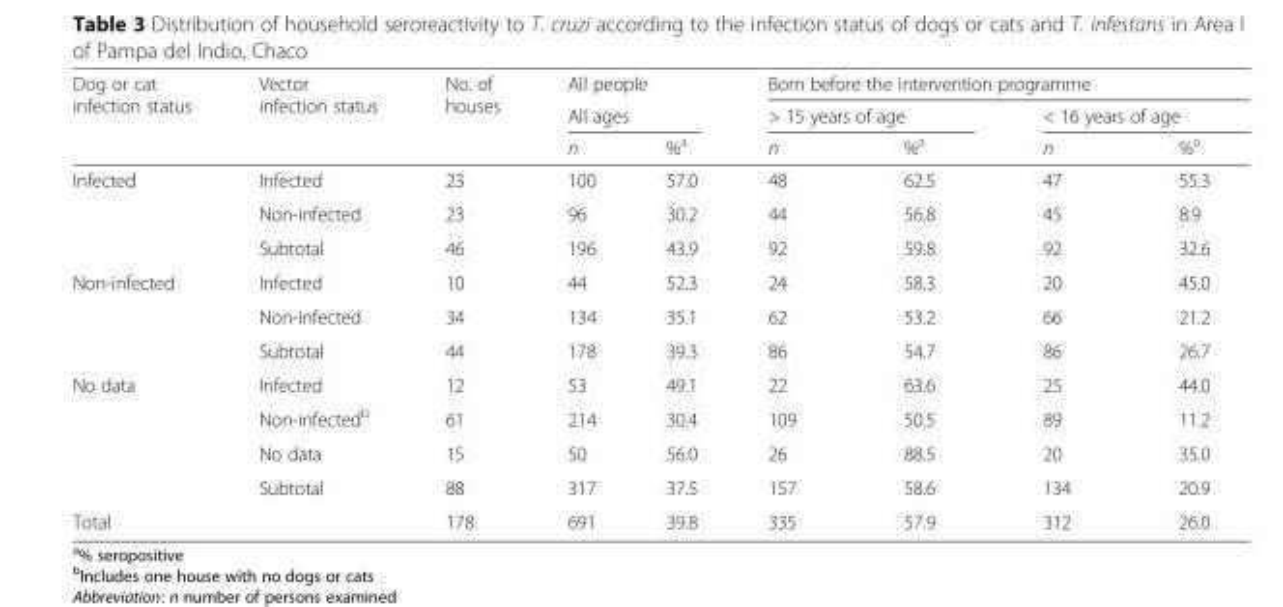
<table><thead><tr><td rowspan="3">Dog or cat infection status</td><td rowspan="3">Vector infection status</td><td rowspan="3">No. of houses</td><td rowspan="2" colspan="2">All people All ages</td><td colspan="4">Born before the intervention programme</td></tr><tr><td colspan="2">&gt; 15 years of age</td><td colspan="2">&lt; 16 years of age</td></tr><tr><td>n</td><td>%<sup>a</sup></td><td>n</td><td>%<sup>a</sup></td><td>n</td><td>%<sup>a</sup></td></tr></thead><tbody><tr><td rowspan="3">Infected</td><td>Infected</td><td>23</td><td>100</td><td>57.0</td><td>48</td><td>62.5</td><td>47</td><td>55.3</td></tr><tr><td>Non-infected</td><td>23</td><td>96</td><td>30.2</td><td>44</td><td>56.8</td><td>45</td><td>8.9</td></tr><tr><td>Subtotal</td><td>46</td><td>196</td><td>43.9</td><td>92</td><td>59.8</td><td>92</td><td>32.6</td></tr><tr><td rowspan="3">Non-infected</td><td>Infected</td><td>10</td><td>44</td><td>52.3</td><td>24</td><td>58.3</td><td>20</td><td>45.0</td></tr><tr><td>Non-infected</td><td>34</td><td>134</td><td>35.1</td><td>62</td><td>53.2</td><td>66</td><td>21.2</td></tr><tr><td>Subtotal</td><td>44</td><td>178</td><td>39.3</td><td>86</td><td>54.7</td><td>86</td><td>26.7</td></tr><tr><td rowspan="4">No data</td><td>Infected</td><td>12</td><td>53</td><td>49.1</td><td>22</td><td>63.6</td><td>25</td><td>44.0</td></tr><tr><td>Non-infected<sup>b</sup></td><td>61</td><td>214</td><td>30.4</td><td>109</td><td>50.5</td><td>89</td><td>11.2</td></tr><tr><td>No data</td><td>15</td><td>50</td><td>56.0</td><td>26</td><td>88.5</td><td>20</td><td>35.0</td></tr><tr><td>Subtotal</td><td>88</td><td>317</td><td>37.5</td><td>157</td><td>58.6</td><td>134</td><td>20.9</td></tr><tr><td>Total</td><td></td><td>178</td><td>691</td><td>39.8</td><td>335</td><td>57.9</td><td>312</td><td>26.0</td></tr></tbody></table>